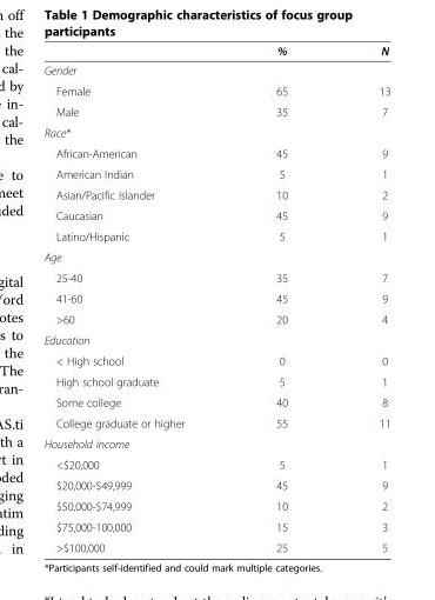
<table><thead><tr><td></td><td>%</td><td>N</td></tr></thead><tbody><tr><td colspan="3">Gender</td></tr><tr><td>Female</td><td>65</td><td>13</td></tr><tr><td>Male</td><td>35</td><td>7</td></tr><tr><td colspan="3">Race*</td></tr><tr><td>African-American</td><td>45</td><td>9</td></tr><tr><td>American Indian</td><td>5</td><td>1</td></tr><tr><td>Asian/Pacific Islander</td><td>10</td><td>2</td></tr><tr><td>Caucasian</td><td>45</td><td>9</td></tr><tr><td>Latino/Hispanic</td><td>5</td><td>1</td></tr><tr><td colspan="3">Age</td></tr><tr><td>25-40</td><td>35</td><td>7</td></tr><tr><td>41-60</td><td>45</td><td>9</td></tr><tr><td>&gt;60</td><td>20</td><td>4</td></tr><tr><td colspan="3">Education</td></tr><tr><td>&lt; High school</td><td>0</td><td>0</td></tr><tr><td>High school graduate</td><td>5</td><td>1</td></tr><tr><td>Some college</td><td>40</td><td>8</td></tr><tr><td>College graduate or higher</td><td>55</td><td>11</td></tr><tr><td colspan="3">Household income</td></tr><tr><td>&lt;$20,000</td><td>5</td><td>1</td></tr><tr><td>$20,000-$49,999</td><td>45</td><td>9</td></tr><tr><td>$50,000-$74,999</td><td>10</td><td>2</td></tr><tr><td>$75,000-100,000</td><td>15</td><td>3</td></tr><tr><td>&gt;$100,000</td><td>25</td><td>5</td></tr></tbody></table>